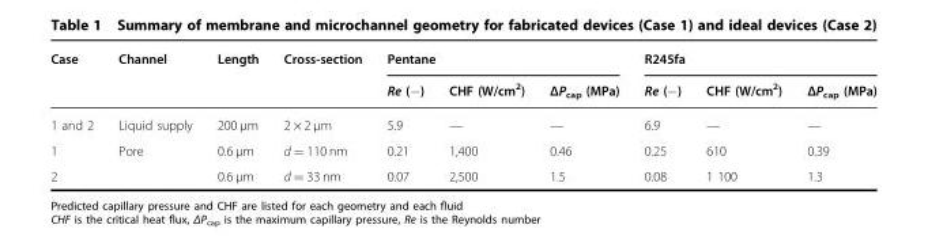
<table><thead><tr><td rowspan="2">Case</td><td rowspan="2">Channel</td><td rowspan="2">Length</td><td rowspan="2">Cross-section</td><td colspan="3">Pentane</td><td colspan="3">R245fa</td></tr><tr><td>Re (−)</td><td>CHF (W/cm<sup>2</sup>)</td><td>ΔP<sub>cap</sub> (MPa)</td><td>Re (−)</td><td>CHF (W/cm<sup>2</sup>)</td><td>ΔP<sub>cap</sub> (MPa)</td></tr></thead><tbody><tr><td>1 and 2</td><td>Liquid supply</td><td>200 µm</td><td>2 × 2 µm</td><td>5.9</td><td>—</td><td>—</td><td>6.9</td><td>—</td><td>—</td></tr><tr><td>1</td><td>Pore</td><td>0.6 µm</td><td>d = 110 nm</td><td>0.21</td><td>1,400</td><td>0.46</td><td>0.25</td><td>610</td><td>0.39</td></tr><tr><td>2</td><td></td><td>0.6 µm</td><td>d = 33 nm</td><td>0.07</td><td>2,500</td><td>1.5</td><td>0.08</td><td>1 100</td><td>1.3</td></tr></tbody></table>